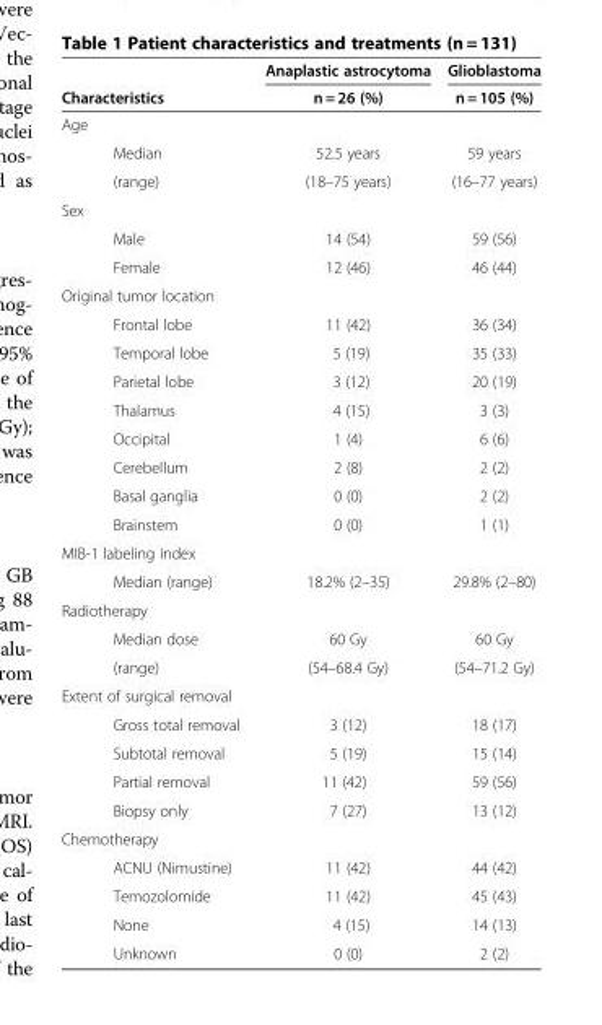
<table><thead><tr><td rowspan="2" colspan="2">Characteristics</td><td rowspan="3">Anaplastic astrocytoma n = 26 (%)</td><td rowspan="3">Glioblastoma n = 105 (%)</td></tr><tr></tr><tr><td>Age</td><td></td></tr></thead><tbody><tr><td></td><td>Median</td><td>52.5 years</td><td>59 years</td></tr><tr><td></td><td>(range)</td><td>(18–75 years)</td><td>(16–77 years)</td></tr><tr><td colspan="4">Sex</td></tr><tr><td></td><td>Male</td><td>14 (54)</td><td>59 (56)</td></tr><tr><td></td><td>Female</td><td>12 (46)</td><td>46 (44)</td></tr><tr><td colspan="4">Original tumor location</td></tr><tr><td></td><td>Frontal lobe</td><td>11 (42)</td><td>36 (34)</td></tr><tr><td></td><td>Temporal lobe</td><td>5 (19)</td><td>35 (33)</td></tr><tr><td></td><td>Parietal lobe</td><td>3 (12)</td><td>20 (19)</td></tr><tr><td></td><td>Thalamus</td><td>4 (15)</td><td>3 (3)</td></tr><tr><td></td><td>Occipital</td><td>1 (4)</td><td>6 (6)</td></tr><tr><td></td><td>Cerebellum</td><td>2 (8)</td><td>2 (2)</td></tr><tr><td></td><td>Basal ganglia</td><td>0 (0)</td><td>2 (2)</td></tr><tr><td></td><td>Brainstem</td><td>0 (0)</td><td>1 (1)</td></tr><tr><td colspan="4">MIB-1 labeling index</td></tr><tr><td></td><td>Median (range)</td><td>18.2% (2–35)</td><td>29.8% (2–80)</td></tr><tr><td colspan="4">Radiotherapy</td></tr><tr><td></td><td>Median dose</td><td>60 Gy</td><td>60 Gy</td></tr><tr><td></td><td>(range)</td><td>(54–68.4 Gy)</td><td>(54–71.2 Gy)</td></tr><tr><td colspan="4">Extent of surgical removal</td></tr><tr><td></td><td>Gross total removal</td><td>3 (12)</td><td>18 (17)</td></tr><tr><td></td><td>Subtotal removal</td><td>5 (19)</td><td>15 (14)</td></tr><tr><td></td><td>Partial removal</td><td>11 (42)</td><td>59 (56)</td></tr><tr><td></td><td>Biopsy only</td><td>7 (27)</td><td>13 (12)</td></tr><tr><td colspan="4">Chemotherapy</td></tr><tr><td></td><td>ACNU (Nimustine)</td><td>11 (42)</td><td>44 (42)</td></tr><tr><td></td><td>Temozolomide</td><td>11 (42)</td><td>45 (43)</td></tr><tr><td></td><td>None</td><td>4 (15)</td><td>14 (13)</td></tr><tr><td></td><td>Unknown</td><td>0 (0)</td><td>2 (2)</td></tr></tbody></table>